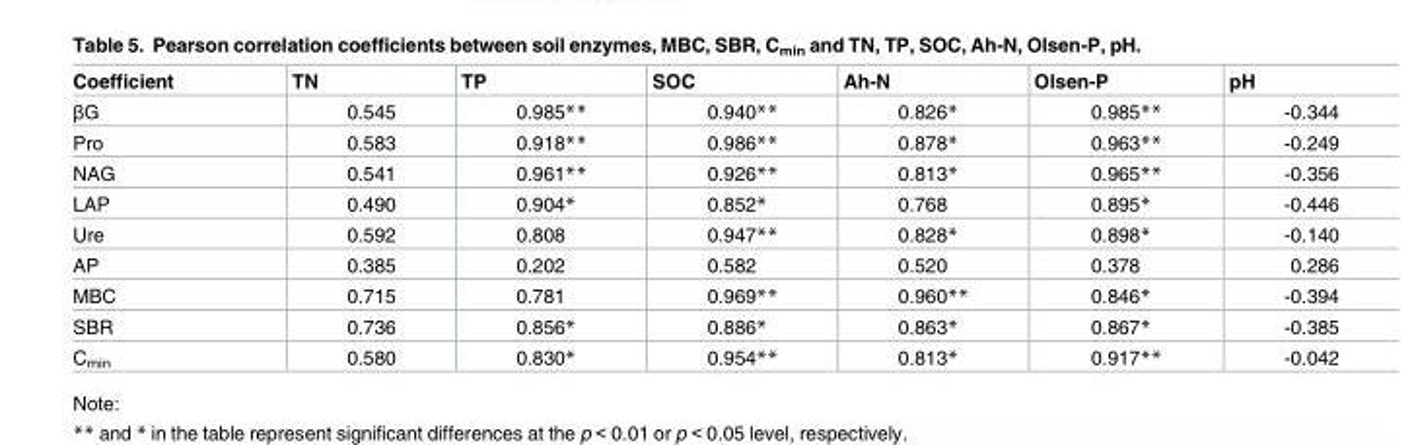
<table><thead><tr><td>Coefficient</td><td>TN</td><td>TP</td><td>SOC</td><td>Ah-N</td><td>Olsen-P</td><td>pH</td></tr></thead><tbody><tr><td>βG</td><td>0.545</td><td>0.985**</td><td>0.940**</td><td>0.826*</td><td>0.985**</td><td>-0.344</td></tr><tr><td>Pro</td><td>0.583</td><td>0.918**</td><td>0.986**</td><td>0.878*</td><td>0.963**</td><td>-0.249</td></tr><tr><td>NAG</td><td>0.541</td><td>0.961**</td><td>0.926**</td><td>0.813*</td><td>0.965**</td><td>-0.356</td></tr><tr><td>LAP</td><td>0.490</td><td>0.904*</td><td>0.852*</td><td>0.768</td><td>0.895*</td><td>-0.446</td></tr><tr><td>Ure</td><td>0.592</td><td>0.808</td><td>0.947**</td><td>0.828*</td><td>0.898*</td><td>-0.140</td></tr><tr><td>AP</td><td>0.385</td><td>0.202</td><td>0.582</td><td>0.520</td><td>0.378</td><td>0.286</td></tr><tr><td>MBC</td><td>0.715</td><td>0.781</td><td>0.969**</td><td>0.960**</td><td>0.846*</td><td>-0.394</td></tr><tr><td>SBR</td><td>0.736</td><td>0.856*</td><td>0.886*</td><td>0.863*</td><td>0.867*</td><td>-0.385</td></tr><tr><td>C<sub>min</sub></td><td>0.580</td><td>0.830*</td><td>0.954**</td><td>0.813*</td><td>0.917**</td><td>-0.042</td></tr></tbody></table>